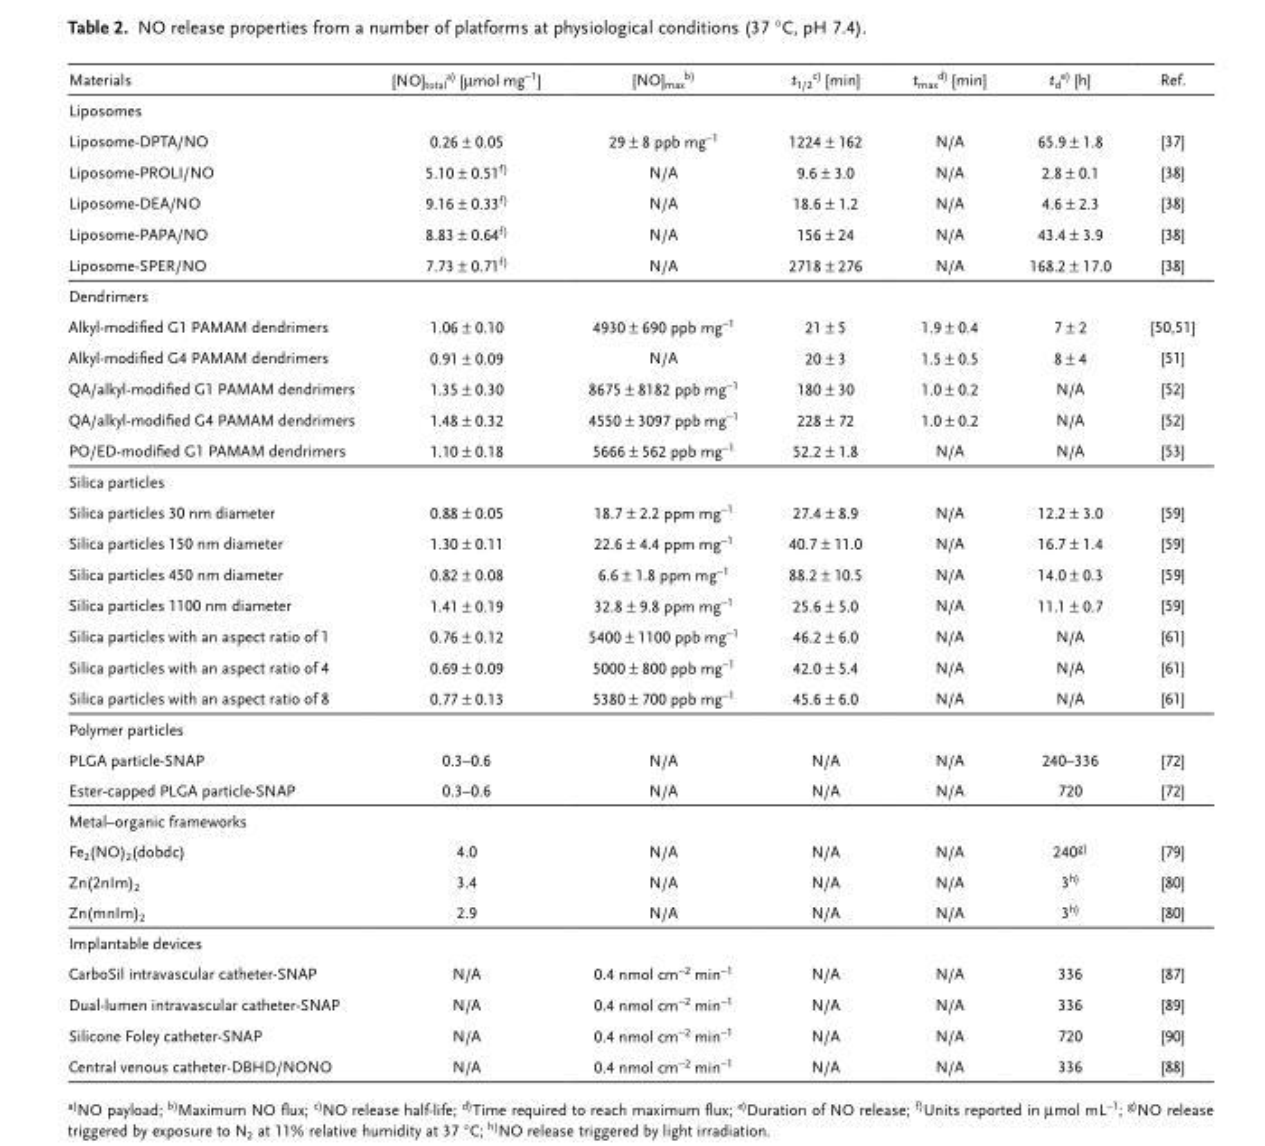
<table><thead><tr><td>Materials</td><td>[NO]<sub>total</sub>a) [µmol mg<sup>−1</sup>]</td><td>[NO]<sub>max</sub>b)</td><td>t<sub>1/2</sub>c) [min]</td><td>t<sub>max</sub>d) [min]</td><td>t<sub>d</sub>e) [h]</td><td>Ref.</td></tr></thead><tbody><tr><td colspan="7">Liposomes</td></tr><tr><td>Liposome-DPTA/NO</td><td>0.26 ± 0.05</td><td>29 ± 8 ppb mg<sup>−1</sup></td><td>1224 ± 162</td><td>N/A</td><td>65.9 ± 1.8</td><td>[37]</td></tr><tr><td>Liposome-PROLI/NO</td><td>5.10 ± 0.51f)</td><td>N/A</td><td>9.6 ± 3.0</td><td>N/A</td><td>2.8 ± 0.1</td><td>[38]</td></tr><tr><td>Liposome-DEA/NO</td><td>9.16 ± 0.33f)</td><td>N/A</td><td>18.6 ± 1.2</td><td>N/A</td><td>4.6 ± 2.3</td><td>[38]</td></tr><tr><td>Liposome-PAPA/NO</td><td>8.83 ± 0.64f)</td><td>N/A</td><td>156 ± 24</td><td>N/A</td><td>43.4 ± 3.9</td><td>[38]</td></tr><tr><td>Liposome-SPER/NO</td><td>7.73 ± 0.71f)</td><td>N/A</td><td>2718 ± 276</td><td>N/A</td><td>168.2 ± 17.0</td><td>[38]</td></tr><tr><td colspan="7">Dendrimers</td></tr><tr><td>Alkyl-modified G1 PAMAM dendrimers</td><td>1.06 ± 0.10</td><td>4930 ± 690 ppb mg<sup>−1</sup></td><td>21 ± 5</td><td>1.9 ± 0.4</td><td>7 ± 2</td><td>[50,51]</td></tr><tr><td>Alkyl-modified G4 PAMAM dendrimers</td><td>0.91 ± 0.09</td><td>N/A</td><td>20 ± 3</td><td>1.5 ± 0.5</td><td>8 ± 4</td><td>[51]</td></tr><tr><td>QA/alkyl-modified G1 PAMAM dendrimers</td><td>1.35 ± 0.30</td><td>8675 ± 8182 ppb mg<sup>−1</sup></td><td>180 ± 30</td><td>1.0 ± 0.2</td><td>N/A</td><td>[52]</td></tr><tr><td>QA/alkyl-modified G4 PAMAM dendrimers</td><td>1.48 ± 0.32</td><td>4550 ± 3097 ppb mg<sup>−1</sup></td><td>228 ± 72</td><td>1.0 ± 0.2</td><td>N/A</td><td>[52]</td></tr><tr><td>PO/ED-modified G1 PAMAM dendrimers</td><td>1.10 ± 0.18</td><td>5666 ± 562 ppb mg<sup>−1</sup></td><td>52.2 ± 1.8</td><td>N/A</td><td>N/A</td><td>[53]</td></tr><tr><td colspan="7">Silica particles</td></tr><tr><td>Silica particles 30 nm diameter</td><td>0.88 ± 0.05</td><td>18.7 ± 2.2 ppm mg<sup>−1</sup></td><td>27.4 ± 8.9</td><td>N/A</td><td>12.2 ± 3.0</td><td>[59]</td></tr><tr><td>Silica particles 150 nm diameter</td><td>1.30 ± 0.11</td><td>22.6 ± 4.4 ppm mg<sup>−1</sup></td><td>40.7 ± 11.0</td><td>N/A</td><td>16.7 ± 1.4</td><td>[59]</td></tr><tr><td>Silica particles 450 nm diameter</td><td>0.82 ± 0.08</td><td>6.6 ± 1.8 ppm mg<sup>−1</sup></td><td>88.2 ± 10.5</td><td>N/A</td><td>14.0 ± 0.3</td><td>[59]</td></tr><tr><td>Silica particles 1100 nm diameter</td><td>1.41 ± 0.19</td><td>32.8 ± 9.8 ppm mg<sup>−1</sup></td><td>25.6 ± 5.0</td><td>N/A</td><td>11.1 ± 0.7</td><td>[59]</td></tr><tr><td>Silica particles with an aspect ratio of 1</td><td>0.76 ± 0.12</td><td>5400 ± 1100 ppb mg<sup>−1</sup></td><td>46.2 ± 6.0</td><td>N/A</td><td>N/A</td><td>[61]</td></tr><tr><td>Silica particles with an aspect ratio of 4</td><td>0.69 ± 0.09</td><td>5000 ± 800 ppb mg<sup>−1</sup></td><td>42.0 ± 5.4</td><td>N/A</td><td>N/A</td><td>[61]</td></tr><tr><td>Silica particles with an aspect ratio of 8</td><td>0.77 ± 0.13</td><td>5380 ± 700 ppb mg<sup>−1</sup></td><td>45.6 ± 6.0</td><td>N/A</td><td>N/A</td><td>[61]</td></tr><tr><td colspan="7">Polymer particles</td></tr><tr><td>PLGA particle-SNAP</td><td>0.3–0.6</td><td>N/A</td><td>N/A</td><td>N/A</td><td>240–336</td><td>[72]</td></tr><tr><td>Ester-capped PLGA particle-SNAP</td><td>0.3–0.6</td><td>N/A</td><td>N/A</td><td>N/A</td><td>720</td><td>[72]</td></tr><tr><td colspan="7">Metal–organic frameworks</td></tr><tr><td>Fe<sub>2</sub>(NO)<sub>2</sub>(dobdc)</td><td>4.0</td><td>N/A</td><td>N/A</td><td>N/A</td><td>240g)</td><td>[79]</td></tr><tr><td>Zn(2nIm)<sub>2</sub></td><td>3.4</td><td>N/A</td><td>N/A</td><td>N/A</td><td>3h)</td><td>[80]</td></tr><tr><td>Zn(mnIm)<sub>2</sub></td><td>2.9</td><td>N/A</td><td>N/A</td><td>N/A</td><td>3h)</td><td>[80]</td></tr><tr><td colspan="7">Implantable devices</td></tr><tr><td>CarboSil intravascular catheter-SNAP</td><td>N/A</td><td>0.4 nmol cm<sup>−2</sup> min<sup>−1</sup></td><td>N/A</td><td>N/A</td><td>336</td><td>[87]</td></tr><tr><td>Dual-lumen intravascular catheter-SNAP</td><td>N/A</td><td>0.4 nmol cm<sup>−2</sup> min<sup>−1</sup></td><td>N/A</td><td>N/A</td><td>336</td><td>[89]</td></tr><tr><td>Silicone Foley catheter-SNAP</td><td>N/A</td><td>0.4 nmol cm<sup>−2</sup> min<sup>−1</sup></td><td>N/A</td><td>N/A</td><td>720</td><td>[90]</td></tr><tr><td>Central venous catheter-DBHD/NONO</td><td>N/A</td><td>0.4 nmol cm<sup>−2</sup> min<sup>−1</sup></td><td>N/A</td><td>N/A</td><td>336</td><td>[88]</td></tr></tbody></table>